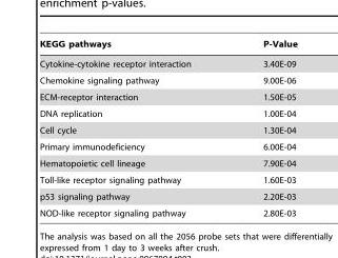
<table><thead><tr><td>KEGG pathways</td><td>P-Value</td></tr></thead><tbody><tr><td>Cytokine-cytokine receptor interaction</td><td>3.40E-09</td></tr><tr><td>Chemokine signaling pathway</td><td>9.00E-06</td></tr><tr><td>ECM-receptor interaction</td><td>1.50E-05</td></tr><tr><td>DNA replication</td><td>1.00E-04</td></tr><tr><td>Cell cycle</td><td>1.30E-04</td></tr><tr><td>Primary immunodeficiency</td><td>6.00E-04</td></tr><tr><td>Hematopoietic cell lineage</td><td>7.90E-04</td></tr><tr><td>Toll-like receptor signaling pathway</td><td>1.60E-03</td></tr><tr><td>p53 signaling pathway</td><td>2.20E-03</td></tr><tr><td>NOD-like receptor signaling pathway</td><td>2.80E-03</td></tr></tbody></table>